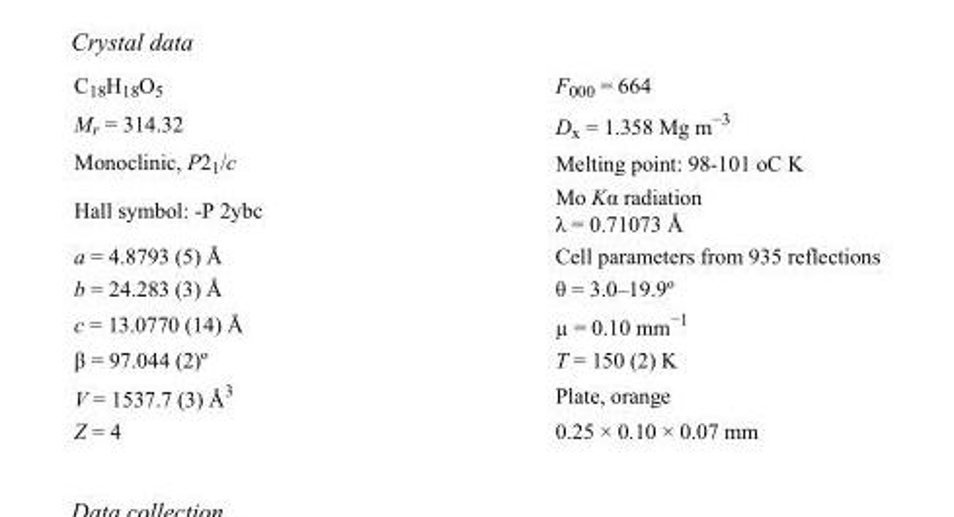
<table><tbody><tr><td>C<sub>18</sub>H<sub>18</sub>O<sub>5</sub></td><td>F<sub>000</sub> = 664</td></tr><tr><td>M<sub>r</sub> = 314.32</td><td>D<sub>x</sub> = 1.358 Mg m<sup>−3</sup></td></tr><tr><td>Monoclinic, P2<sub>1</sub>/c</td><td>Melting point: 98-101 οC K</td></tr><tr><td>Hall symbol: -P 2ybc</td><td>Mo Kα radiation λ = 0.71073 Å</td></tr><tr><td>a = 4.8793 (5) Å</td><td>Cell parameters from 935 reflections</td></tr><tr><td>b = 24.283 (3) Å</td><td>θ = 3.0–19.9º</td></tr><tr><td>c = 13.0770 (14) Å</td><td>µ = 0.10 mm<sup>−1</sup></td></tr><tr><td>β = 97.044 (2)º</td><td>T = 150 (2) K</td></tr><tr><td>V = 1537.7 (3) Å<sup>3</sup></td><td>Plate, orange</td></tr><tr><td>Z = 4</td><td>0.25 × 0.10 × 0.07 mm</td></tr></tbody></table>